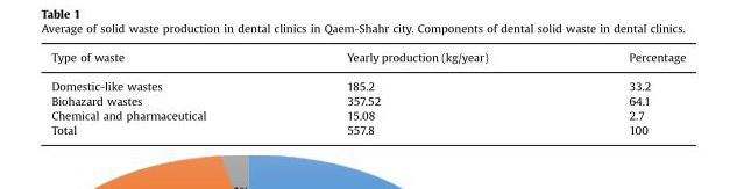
<table><thead><tr><td>Type of waste</td><td>Yearly production (kg/year)</td><td>Percentage</td></tr></thead><tbody><tr><td>Domestic-like wastes</td><td>185.2</td><td>33.2</td></tr><tr><td>Biohazard wastes</td><td>357.52</td><td>64.1</td></tr><tr><td>Chemical and pharmaceutical</td><td>15.08</td><td>2.7</td></tr><tr><td>Total</td><td>557.8</td><td>100</td></tr></tbody></table>